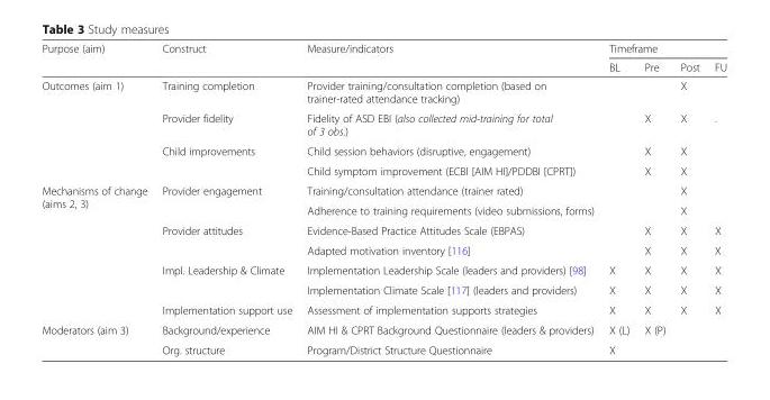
<table><thead><tr><td rowspan="2">Purpose (aim)</td><td rowspan="2">Construct</td><td rowspan="2">Measure/indicators</td><td colspan="4">Timeframe</td></tr><tr><td>BL</td><td>Pre</td><td>Post</td><td>FU</td></tr></thead><tbody><tr><td rowspan="4">Outcomes (aim 1)</td><td>Training completion</td><td>Provider training/consultation completion (based on trainer-rated attendance tracking)</td><td></td><td></td><td>X</td><td></td></tr><tr><td>Provider fidelity</td><td>Fidelity of ASD EBI (also collected mid-training for total of 3 obs.)</td><td></td><td>X</td><td>X</td><td>.</td></tr><tr><td rowspan="2">Child improvements</td><td>Child session behaviors (disruptive, engagement)</td><td></td><td>X</td><td>X</td><td></td></tr><tr><td>Child symptom improvement (ECBI [AIM HI]/PDDBI [CPRT])</td><td></td><td>X</td><td>X</td><td></td></tr><tr><td rowspan="7">Mechanisms of change (aims 2, 3)</td><td rowspan="2">Provider engagement</td><td>Training/consultation attendance (trainer rated)</td><td></td><td></td><td>X</td><td></td></tr><tr><td>Adherence to training requirements (video submissions, forms)</td><td></td><td></td><td>X</td><td></td></tr><tr><td rowspan="2">Provider attitudes</td><td>Evidence-Based Practice Attitudes Scale (EBPAS)</td><td></td><td>X</td><td>X</td><td>X</td></tr><tr><td>Adapted motivation inventory [116]</td><td></td><td>X</td><td>X</td><td>X</td></tr><tr><td rowspan="2">Impl. Leadership &amp; Climate</td><td>Implementation Leadership Scale (leaders and providers) [98]</td><td>X</td><td>X</td><td>X</td><td>X</td></tr><tr><td>Implementation Climate Scale [117] (leaders and providers)</td><td>X</td><td>X</td><td>X</td><td>X</td></tr><tr><td>Implementation support use</td><td>Assessment of implementation supports strategies</td><td>X</td><td>X</td><td>X</td><td>X</td></tr><tr><td rowspan="2">Moderators (aim 3)</td><td>Background/experience</td><td>AIM HI &amp; CPRT Background Questionnaire (leaders &amp; providers)</td><td>X (L)</td><td>X (P)</td><td></td><td></td></tr><tr><td>Org. structure</td><td>Program/District Structure Questionnaire</td><td>X</td><td></td><td></td><td></td></tr></tbody></table>